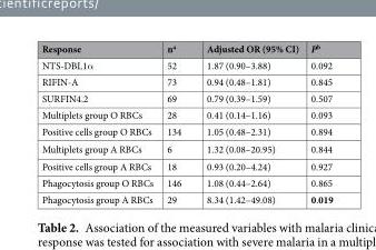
<table><thead><tr><td>Response</td><td>n<sup>a</sup></td><td>Adjusted OR (95% CI)</td><td>P<sup>b</sup></td></tr></thead><tbody><tr><td>NTS-DBL1α</td><td>52</td><td>1.87 (0.90–3.88)</td><td>0.092</td></tr><tr><td>RIFIN-A</td><td>73</td><td>0.94 (0.48–1.81)</td><td>0.845</td></tr><tr><td>SURFIN4.2</td><td>69</td><td>0.79 (0.39–1.59)</td><td>0.507</td></tr><tr><td>Multiplets group O RBCs</td><td>28</td><td>0.41 (0.14–1.16)</td><td>0.093</td></tr><tr><td>Positive cells group O RBCs</td><td>134</td><td>1.05 (0.48–2.31)</td><td>0.894</td></tr><tr><td>Multiplets group A RBCs</td><td>6</td><td>1.32 (0.08–20.95)</td><td>0.844</td></tr><tr><td>Positive cells group A RBCs</td><td>18</td><td>0.93 (0.20–4.24)</td><td>0.927</td></tr><tr><td>Phagocytosis group O RBCs</td><td>146</td><td>1.08 (0.44–2.64)</td><td>0.865</td></tr><tr><td>Phagocytosis group A RBCs</td><td>29</td><td>8.34 (1.42–49.08)</td><td>0.019</td></tr></tbody></table>